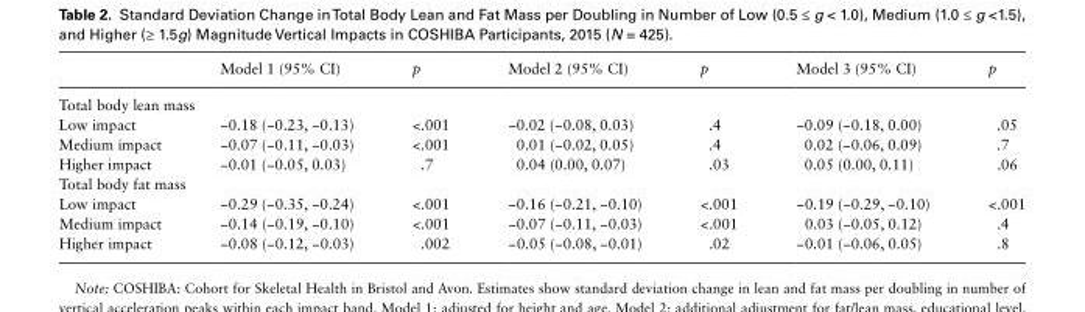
<table><thead><tr><td></td><td>Model 1 (95% CI)</td><td>p</td><td>Model 2 (95% CI)</td><td>p</td><td>Model 3 (95% CI)</td><td>p</td></tr></thead><tbody><tr><td colspan="7">Total body lean mass</td></tr><tr><td>Low impact</td><td>−0.18 (−0.23, −0.13)</td><td>&lt;.001</td><td>−0.02 (−0.08, 0.03)</td><td>.4</td><td>−0.09 (−0.18, 0.00)</td><td>.05</td></tr><tr><td>Medium impact</td><td>−0.07 (−0.11, −0.03)</td><td>&lt;.001</td><td>0.01 (−0.02, 0.05)</td><td>.4</td><td>0.02 (−0.06, 0.09)</td><td>.7</td></tr><tr><td>Higher impact</td><td>−0.01 (−0.05, 0.03)</td><td>.7</td><td>0.04 (0.00, 0.07)</td><td>.03</td><td>0.05 (0.00, 0.11)</td><td>.06</td></tr><tr><td colspan="7">Total body fat mass</td></tr><tr><td>Low impact</td><td>−0.29 (−0.35, −0.24)</td><td>&lt;.001</td><td>−0.16 (−0.21, −0.10)</td><td>&lt;.001</td><td>−0.19 (−0.29, −0.10)</td><td>&lt;.001</td></tr><tr><td>Medium impact</td><td>−0.14 (−0.19, −0.10)</td><td>&lt;.001</td><td>−0.07 (−0.11, −0.03)</td><td>&lt;.001</td><td>0.03 (−0.05, 0.12)</td><td>.4</td></tr><tr><td>Higher impact</td><td>−0.08 (−0.12, −0.03)</td><td>.002</td><td>−0.05 (−0.08, −0.01)</td><td>.02</td><td>−0.01 (−0.06, 0.05)</td><td>.8</td></tr></tbody></table>